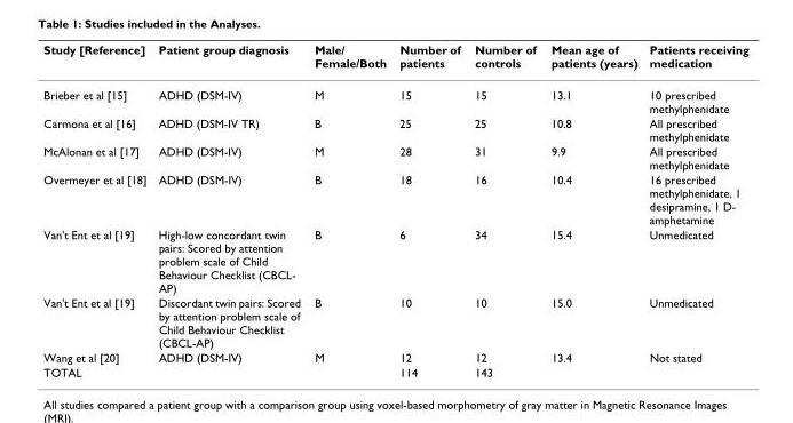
<table><thead><tr><td>Study [Reference]</td><td>Patient group diagnosis</td><td>Male/ Female/Both</td><td>Number of patients</td><td>Number of controls</td><td>Mean age of patients (years)</td><td>Patients receiving medication</td></tr></thead><tbody><tr><td>Brieber et al [15]</td><td>ADHD (DSM-IV)</td><td>M</td><td>15</td><td>15</td><td>13.1</td><td>10 prescribed methylphenidate</td></tr><tr><td>Carmona et al [16]</td><td>ADHD (DSM-IV TR)</td><td>B</td><td>25</td><td>25</td><td>10.8</td><td>All prescribed methylphenidate</td></tr><tr><td>McAlonan et al [17]</td><td>ADHD (DSM-IV)</td><td>M</td><td>28</td><td>31</td><td>9.9</td><td>All prescribed methylphenidate</td></tr><tr><td>Overmeyer et al [18]</td><td>ADHD (DSM-IV)</td><td>B</td><td>18</td><td>16</td><td>10.4</td><td>16 prescribed methylphenidate, 1 desipramine, 1 D- amphetamine</td></tr><tr><td>Van&#x27;t Ent et al [19]</td><td>High-low concordant twin pairs: Scored by attention problem scale of Child Behaviour Checklist (CBCL- AP)</td><td>B</td><td>6</td><td>34</td><td>15.4</td><td>Unmedicated</td></tr><tr><td>Van&#x27;t Ent et al [19]</td><td>Discordant twin pairs: Scored by attention problem scale of Child Behaviour Checklist (CBCL-AP)</td><td>B</td><td>10</td><td>10</td><td>15.0</td><td>Unmedicated</td></tr><tr><td>Wang et al [20]</td><td>ADHD (DSM-IV)</td><td>M</td><td>12</td><td>12</td><td>13.4</td><td>Not stated</td></tr><tr><td>TOTAL</td><td></td><td></td><td>114</td><td>143</td><td></td><td></td></tr></tbody></table>